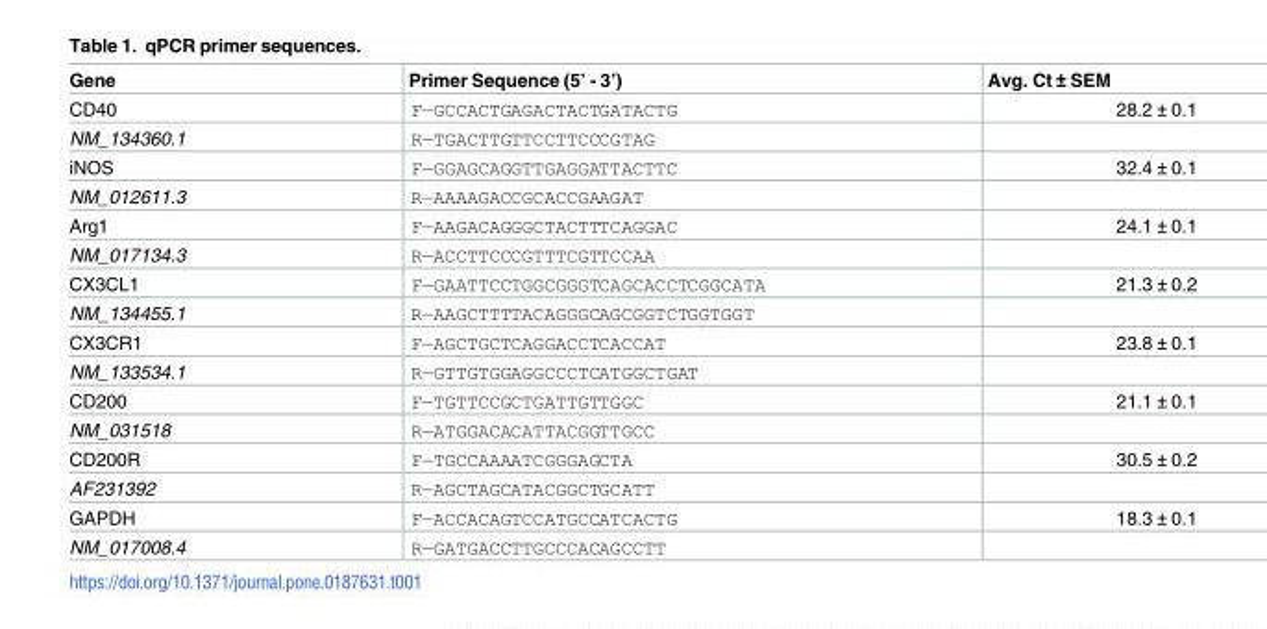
<table><thead><tr><td>Gene</td><td>Primer Sequence (5’ - 3’)</td><td>Avg. Ct ± SEM</td></tr></thead><tbody><tr><td>CD40</td><td>F—GCCACTGAGACTACTGATACTG</td><td>28.2 ± 0.1</td></tr><tr><td>NM_134360.1</td><td>R—TGACTTGTTCCTTCCCGTAG</td><td></td></tr><tr><td>iNOS</td><td>F—GGAGCAGGTTGAGGATTACTTC</td><td>32.4 ± 0.1</td></tr><tr><td>NM_012611.3</td><td>R—AAAAGACCGCACCGAAGAT</td><td></td></tr><tr><td>Arg1</td><td>F—AAGACAGGGCTACTTTCAGGAC</td><td>24.1 ± 0.1</td></tr><tr><td>NM_017134.3</td><td>R—ACCTTCCCGTTTCGTTCCAA</td><td></td></tr><tr><td>CX3CL1</td><td>F—GAATTCCTGGCGGGTCAGCACCTCGGCATA</td><td>21.3 ± 0.2</td></tr><tr><td>NM_134455.1</td><td>R—AAGCTTTTACAGGGCAGCGGTCTGGTGGT</td><td></td></tr><tr><td>CX3CR1</td><td>F—AGCTGCTCAGGACCTCACCAT</td><td>23.8 ± 0.1</td></tr><tr><td>NM_133534.1</td><td>R—GTTGTGGAGGCCCTCATGGCTGAT</td><td></td></tr><tr><td>CD200</td><td>F—TGTTCCGCTGATTGTTGGC</td><td>21.1 ± 0.1</td></tr><tr><td>NM_031518</td><td>R—ATGGACACATTACGGTTGCC</td><td></td></tr><tr><td>CD200R</td><td>F—TGCCAAAATCGGGAGCTA</td><td>30.5 ± 0.2</td></tr><tr><td>AF231392</td><td>R—AGCTAGCATACGGCTGCATT</td><td></td></tr><tr><td>GAPDH</td><td>F—ACCACAGTCCATGCCATCACTG</td><td>18.3 ± 0.1</td></tr><tr><td>NM_017008.4</td><td>R—GATGACCTTGCCCACAGCCTT</td><td></td></tr></tbody></table>